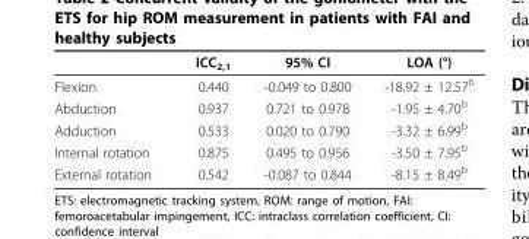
<table><thead><tr><td></td><td>ICC<sub>2,1</sub></td><td>95% CI</td><td>LOA (°)</td></tr></thead><tbody><tr><td>Flexion</td><td>0.440</td><td>-0.049 to 0.800</td><td>-18.92 ± 12.57<sup>b</sup></td></tr><tr><td>Abduction</td><td>0.937</td><td>0.721 to 0.978</td><td>-1.95 ± 4.70<sup>b</sup></td></tr><tr><td>Adduction</td><td>0.533</td><td>0.020 to 0.790</td><td>-3.32 ± 6.99<sup>b</sup></td></tr><tr><td>Internal rotation</td><td>0.875</td><td>0.495 to 0.956</td><td>-3.50 ± 7.95<sup>b</sup></td></tr><tr><td>External rotation</td><td>0.542</td><td>-0.087 to 0.844</td><td>-8.15 ± 8.49<sup>b</sup></td></tr></tbody></table>